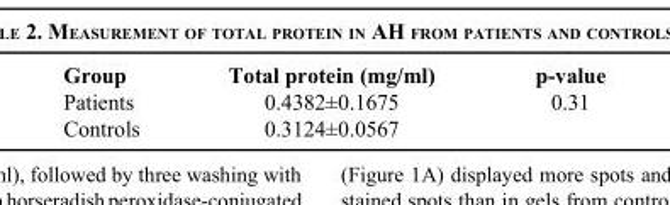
<table><thead><tr><td>Group</td><td>Total protein (mg/ml)</td><td>p-value</td></tr></thead><tbody><tr><td>Patients</td><td>0.4382±0.1675</td><td>0.31</td></tr><tr><td>Controls</td><td>0.3124±0.0567</td><td></td></tr></tbody></table>